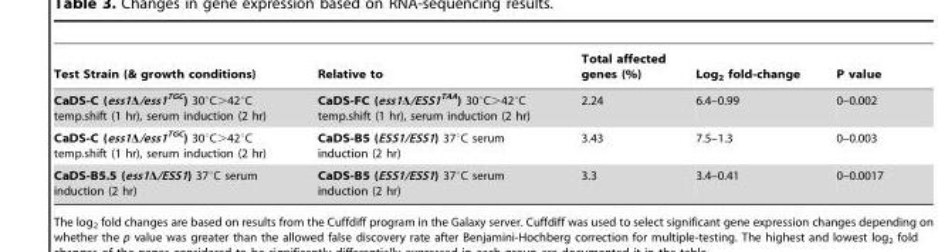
<table><thead><tr><td>Test Strain (&amp; growth conditions)</td><td>Relative to</td><td>Total affected genes (%)</td><td>Log<sub>2</sub> fold-change</td><td>P value</td></tr></thead><tbody><tr><td>CaDS-C (ess1Δ/ess1<sup>TGC</sup>) 30°C&gt;42°C temp.shift (1 hr), serum induction (2 hr)</td><td>CaDS-FC (ess1Δ/ESS1<sup>TAA</sup>) 30°C&gt;42°C temp.shift (1 hr), serum induction (2 hr)</td><td>2.24</td><td>6.4–0.99</td><td>0–0.002</td></tr><tr><td>CaDS-C (ess1Δ/ess1<sup>TGC</sup>) 30°C&gt;42°C temp.shift (1 hr), serum induction (2 hr)</td><td>CaDS-B5 (ESS1/ESS1) 37°C serum induction (2 hr)</td><td>3.43</td><td>7.5–1.3</td><td>0–0.003</td></tr><tr><td>CaDS-B5.5 (ess1Δ/ESS1) 37°C serum induction (2 hr)</td><td>CaDS-B5 (ESS1/ESS1) 37°C serum induction (2 hr)</td><td>3.3</td><td>3.4–0.41</td><td>0–0.0017</td></tr></tbody></table>